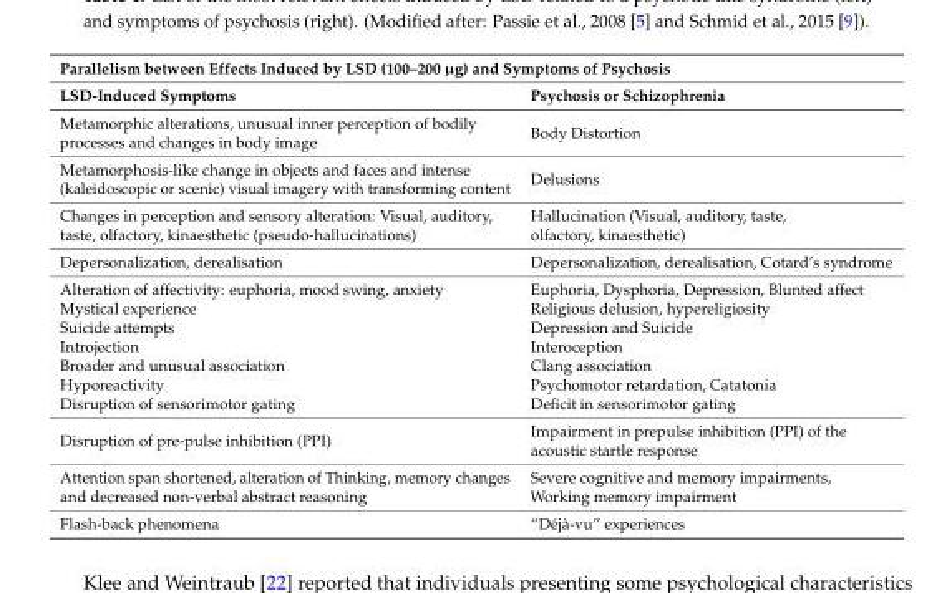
<table><thead><tr><td colspan="2">Parallelism between Effects Induced by LSD (100–200 µg) and Symptoms of Psychosis</td></tr><tr><td>LSD-Induced Symptoms</td><td>Psychosis or Schizophrenia</td></tr></thead><tbody><tr><td>Metamorphic alterations, unusual inner perception of bodily processes and changes in body image</td><td>Body Distortion</td></tr><tr><td>Metamorphosis-like change in objects and faces and intense (kaleidoscopic or scenic) visual imagery with transforming content</td><td>Delusions</td></tr><tr><td>Changes in perception and sensory alteration: Visual, auditory, taste, olfactory, kinaesthetic (pseudo-hallucinations)</td><td>Hallucination (Visual, auditory, taste, olfactory, kinaesthetic)</td></tr><tr><td>Depersonalization, derealisation</td><td>Depersonalization, derealisation, Cotard’s syndrome</td></tr><tr><td>Alteration of affectivity: euphoria, mood swing, anxiety</td><td>Euphoria, Dysphoria, Depression, Blunted affect</td></tr><tr><td>Mystical experience</td><td>Religious delusion, hypereligiosity</td></tr><tr><td>Suicide attempts</td><td>Depression and Suicide</td></tr><tr><td>Introjection</td><td>Interoception</td></tr><tr><td>Broader and unusual association</td><td>Clang association</td></tr><tr><td>Hyporeactivity</td><td>Psychomotor retardation, Catatonia</td></tr><tr><td>Disruption of sensorimotor gating</td><td>Deficit in sensorimotor gating</td></tr><tr><td>Disruption of pre-pulse inhibition (PPI)</td><td>Impairment in prepulse inhibition (PPI) of the acoustic startle response</td></tr><tr><td>Attention span shortened, alteration of Thinking, memory changes and decreased non-verbal abstract reasoning</td><td>Severe cognitive and memory impairments, Working memory impairment</td></tr><tr><td>Flash-back phenomena</td><td>“Déjà-vu” experiences</td></tr></tbody></table>